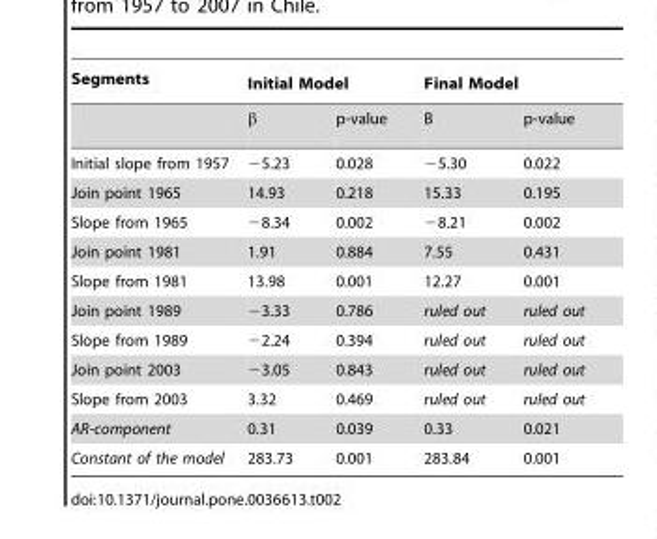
<table><thead><tr><td rowspan="2">Segments</td><td colspan="2">Initial Model</td><td colspan="2">Final Model</td></tr><tr><td>β</td><td>p-value</td><td>B</td><td>p-value</td></tr></thead><tbody><tr><td>Initial slope from 1957</td><td>−5.23</td><td>0.028</td><td>−5.30</td><td>0.022</td></tr><tr><td>Join point 1965</td><td>14.93</td><td>0.218</td><td>15.33</td><td>0.195</td></tr><tr><td>Slope from 1965</td><td>−8.34</td><td>0.002</td><td>−8.21</td><td>0.002</td></tr><tr><td>Join point 1981</td><td>1.91</td><td>0.884</td><td>7.55</td><td>0.431</td></tr><tr><td>Slope from 1981</td><td>13.98</td><td>0.001</td><td>12.27</td><td>0.001</td></tr><tr><td>Join point 1989</td><td>−3.33</td><td>0.786</td><td>ruled out</td><td>ruled out</td></tr><tr><td>Slope from 1989</td><td>−2.24</td><td>0.394</td><td>ruled out</td><td>ruled out</td></tr><tr><td>Join point 2003</td><td>−3.05</td><td>0.843</td><td>ruled out</td><td>ruled out</td></tr><tr><td>Slope from 2003</td><td>3.32</td><td>0.469</td><td>ruled out</td><td>ruled out</td></tr><tr><td>AR-component</td><td>0.31</td><td>0.039</td><td>0.33</td><td>0.021</td></tr><tr><td>Constant of the model</td><td>283.73</td><td>0.001</td><td>283.84</td><td>0.001</td></tr></tbody></table>